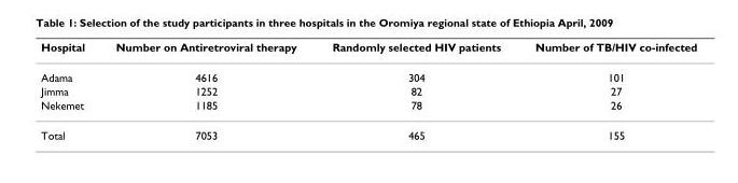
<table><thead><tr><td>Hospital</td><td>Number on Antiretroviral therapy</td><td>Randomly selected HIV patients</td><td>Number of TB/HIV co-infected</td></tr></thead><tbody><tr><td>Adama</td><td>4616</td><td>304</td><td>101</td></tr><tr><td>Jimma</td><td>1252</td><td>82</td><td>27</td></tr><tr><td>Nekemet</td><td>1185</td><td>78</td><td>26</td></tr><tr><td>Total</td><td>7053</td><td>465</td><td>155</td></tr></tbody></table>